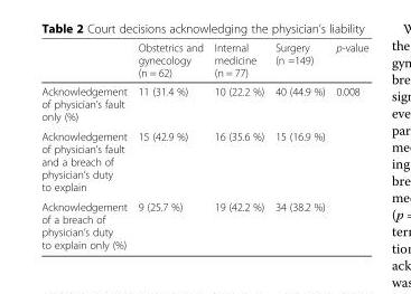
<table><thead><tr><td></td><td>Obstetrics and gynecology (n = 62)</td><td>Internal medicine (n = 77)</td><td>Surgery (n =149)</td><td>p-value</td></tr></thead><tbody><tr><td>Acknowledgement of physician’s fault only (%)</td><td>11 (31.4 %)</td><td>10 (22.2 %)</td><td>40 (44.9 %)</td><td rowspan="3">0.008</td></tr><tr><td>Acknowledgement of physician’s fault and a breach of physician’s duty to explain</td><td>15 (42.9 %)</td><td>16 (35.6 %)</td><td>15 (16.9 %)</td></tr><tr><td>Acknowledgement of a breach of physician’s duty to explain only (%)</td><td>9 (25.7 %)</td><td>19 (42.2 %)</td><td>34 (38.2 %)</td></tr></tbody></table>